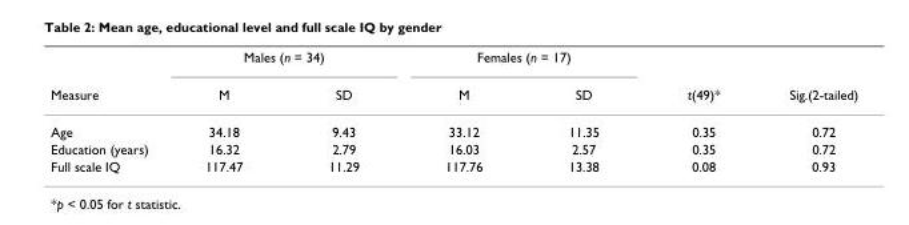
<table><thead><tr><td rowspan="2">Measure</td><td colspan="2">Males (n = 34)</td><td colspan="2">Females (n = 17)</td><td rowspan="2">t(49)*</td><td rowspan="2">Sig.(2-tailed)</td></tr><tr><td>M</td><td>SD</td><td>M</td><td>SD</td></tr></thead><tbody><tr><td>Age</td><td>34.18</td><td>9.43</td><td>33.12</td><td>11.35</td><td>0.35</td><td>0.72</td></tr><tr><td>Education (years)</td><td>16.32</td><td>2.79</td><td>16.03</td><td>2.57</td><td>0.35</td><td>0.72</td></tr><tr><td>Full scale IQ</td><td>117.47</td><td>11.29</td><td>117.76</td><td>13.38</td><td>0.08</td><td>0.93</td></tr></tbody></table>